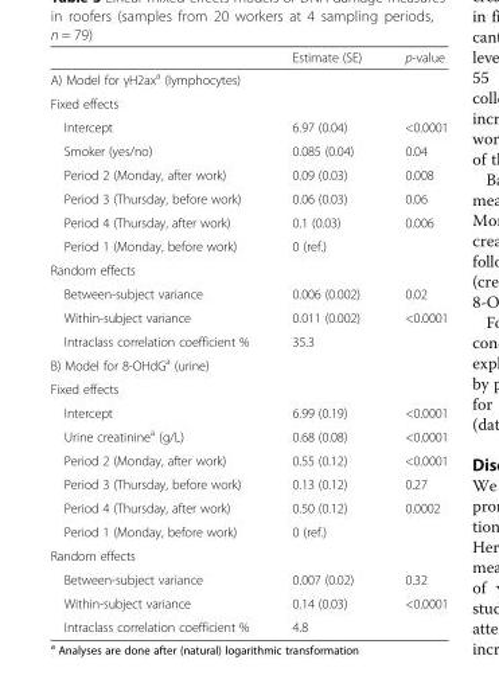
<table><thead><tr><td></td><td>Estimate (SE)</td><td>p-value</td></tr></thead><tbody><tr><td colspan="3">A) Model for γH2ax<sup>a</sup> (lymphocytes)</td></tr><tr><td colspan="3">Fixed effects</td></tr><tr><td>Intercept</td><td>6.97 (0.04)</td><td>&lt;0.0001</td></tr><tr><td>Smoker (yes/no)</td><td>0.085 (0.04)</td><td>0.04</td></tr><tr><td>Period 2 (Monday, after work)</td><td>0.09 (0.03)</td><td>0.008</td></tr><tr><td>Period 3 (Thursday, before work)</td><td>0.06 (0.03)</td><td>0.06</td></tr><tr><td>Period 4 (Thursday, after work)</td><td>0.1 (0.03)</td><td>0.006</td></tr><tr><td>Period 1 (Monday, before work)</td><td>0 (ref.)</td><td></td></tr><tr><td colspan="3">Random effects</td></tr><tr><td>Between-subject variance</td><td>0.006 (0.002)</td><td>0.02</td></tr><tr><td>Within-subject variance</td><td>0.011 (0.002)</td><td>&lt;0.0001</td></tr><tr><td>Intraclass correlation coefficient %</td><td>35.3</td><td></td></tr><tr><td colspan="3">B) Model for 8-OHdG<sup>a</sup> (urine)</td></tr><tr><td colspan="3">Fixed effects</td></tr><tr><td>Intercept</td><td>6.99 (0.19)</td><td>&lt;0.0001</td></tr><tr><td>Urine creatinine<sup>a</sup> (g/L)</td><td>0.68 (0.08)</td><td>&lt;0.0001</td></tr><tr><td>Period 2 (Monday, after work)</td><td>0.55 (0.12)</td><td>&lt;0.0001</td></tr><tr><td>Period 3 (Thursday, before work)</td><td>0.13 (0.12)</td><td>0.27</td></tr><tr><td>Period 4 (Thursday, after work)</td><td>0.50 (0.12)</td><td>0.0002</td></tr><tr><td>Period 1 (Monday, before work)</td><td>0 (ref.)</td><td></td></tr><tr><td colspan="3">Random effects</td></tr><tr><td>Between-subject variance</td><td>0.007 (0.02)</td><td>0.32</td></tr><tr><td>Within-subject variance</td><td>0.14 (0.03)</td><td>&lt;0.0001</td></tr><tr><td>Intraclass correlation coefficient %</td><td>4.8</td><td></td></tr></tbody></table>